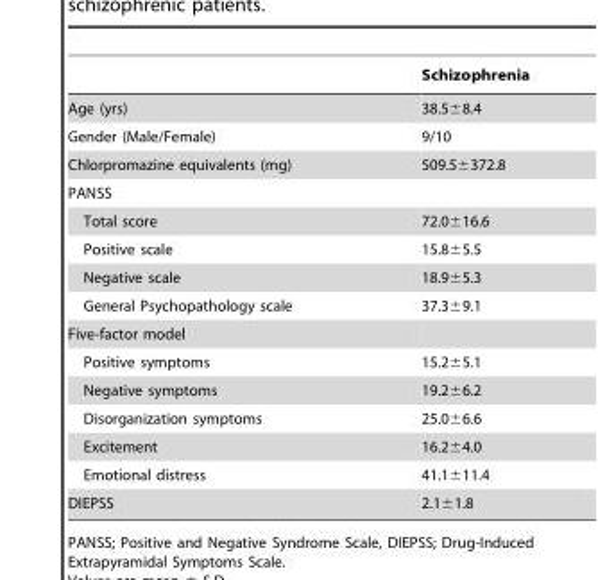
<table><thead><tr><td></td><td>Schizophrenia</td></tr></thead><tbody><tr><td>Age (yrs)</td><td>38.5±8.4</td></tr><tr><td>Gender (Male/Female)</td><td>9/10</td></tr><tr><td>Chlorpromazine equivalents (mg)</td><td>509.5±372.8</td></tr><tr><td colspan="2">PANSS</td></tr><tr><td>Total score</td><td>72.0±16.6</td></tr><tr><td>Positive scale</td><td>15.8±5.5</td></tr><tr><td>Negative scale</td><td>18.9±5.3</td></tr><tr><td>General Psychopathology scale</td><td>37.3±9.1</td></tr><tr><td colspan="2">Five-factor model</td></tr><tr><td>Positive symptoms</td><td>15.2±5.1</td></tr><tr><td>Negative symptoms</td><td>19.2±6.2</td></tr><tr><td>Disorganization symptoms</td><td>25.0±6.6</td></tr><tr><td>Excitement</td><td>16.2±4.0</td></tr><tr><td>Emotional distress</td><td>41.1±11.4</td></tr><tr><td>DIEPSS</td><td>2.1±1.8</td></tr></tbody></table>